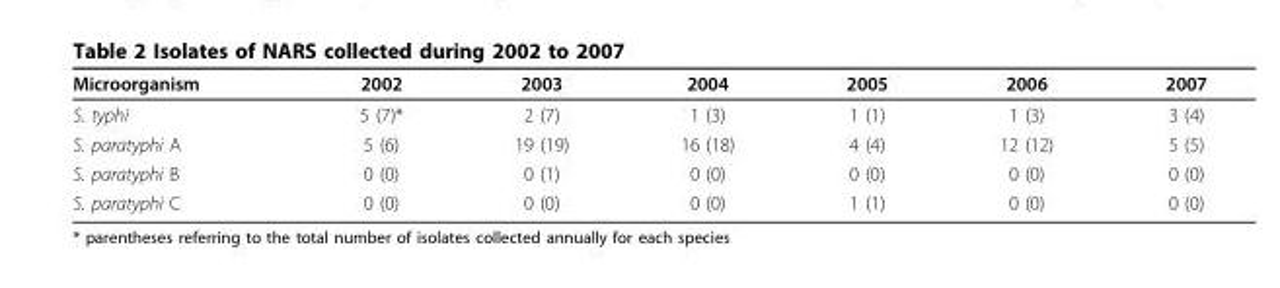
<table><thead><tr><td>Microorganism</td><td>2002</td><td>2003</td><td>2004</td><td>2005</td><td>2006</td><td>2007</td></tr></thead><tbody><tr><td>S. typhi</td><td>5 (7)*</td><td>2 (7)</td><td>1 (3)</td><td>1 (1)</td><td>1 (3)</td><td>3 (4)</td></tr><tr><td>S. paratyphi A</td><td>5 (6)</td><td>19 (19)</td><td>16 (18)</td><td>4 (4)</td><td>12 (12)</td><td>5 (5)</td></tr><tr><td>S. paratyphi B</td><td>0 (0)</td><td>0 (1)</td><td>0 (0)</td><td>0 (0)</td><td>0 (0)</td><td>0 (0)</td></tr><tr><td>S. paratyphi C</td><td>0 (0)</td><td>0 (0)</td><td>0 (0)</td><td>1 (1)</td><td>0 (0)</td><td>0 (0)</td></tr></tbody></table>